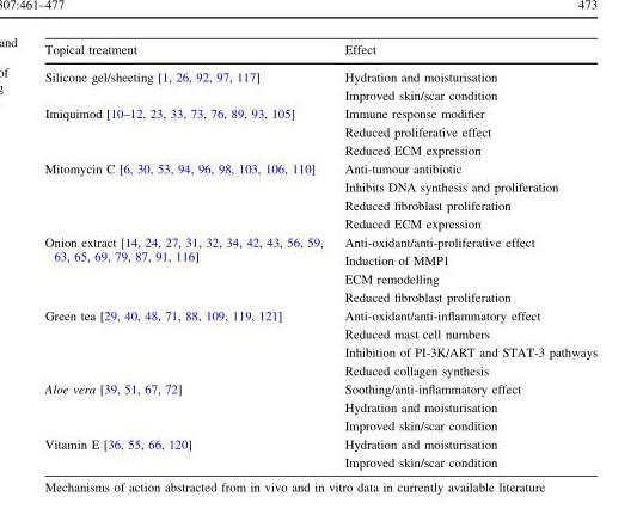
<table><thead><tr><td>Topical treatment</td><td>Effect</td></tr></thead><tbody><tr><td rowspan="2">Silicone gel/sheeting [1, 26, 92, 97, 117]</td><td>Hydration and moisturisation</td></tr><tr><td>Improved skin/scar condition</td></tr><tr><td rowspan="3">Imiquimod [10–12, 23, 33, 73, 76, 89, 93, 105]</td><td>Immune response modifier</td></tr><tr><td>Reduced proliferative effect</td></tr><tr><td>Reduced ECM expression</td></tr><tr><td rowspan="4">Mitomycin C [6, 30, 53, 94, 96, 98, 103, 106, 110]</td><td>Anti-tumour antibiotic</td></tr><tr><td>Inhibits DNA synthesis and proliferation</td></tr><tr><td>Reduced fibroblast proliferation</td></tr><tr><td>Reduced ECM expression</td></tr><tr><td rowspan="4">Onion extract [14, 24, 27, 31, 32, 34, 42, 43, 56, 59, 63, 65, 69, 79, 87, 91, 116]</td><td>Anti-oxidant/anti-proliferative effect</td></tr><tr><td>Induction of MMP1</td></tr><tr><td>ECM remodelling</td></tr><tr><td>Reduced fibroblast proliferation</td></tr><tr><td rowspan="4">Green tea [29, 40, 48, 71, 88, 109, 119, 121]</td><td>Anti-oxidant/anti-inflammatory effect</td></tr><tr><td>Reduced mast cell numbers</td></tr><tr><td>Inhibition of PI-3K/ART and STAT-3 pathways</td></tr><tr><td>Reduced collagen synthesis</td></tr><tr><td rowspan="3">Aloe vera [39, 51, 67, 72]</td><td>Soothing/anti-inflammatory effect</td></tr><tr><td>Hydration and moisturisation</td></tr><tr><td>Improved skin/scar condition</td></tr><tr><td rowspan="2">Vitamin E [36, 55, 66, 120]</td><td>Hydration and moisturisation</td></tr><tr><td>Improved skin/scar condition</td></tr></tbody></table>